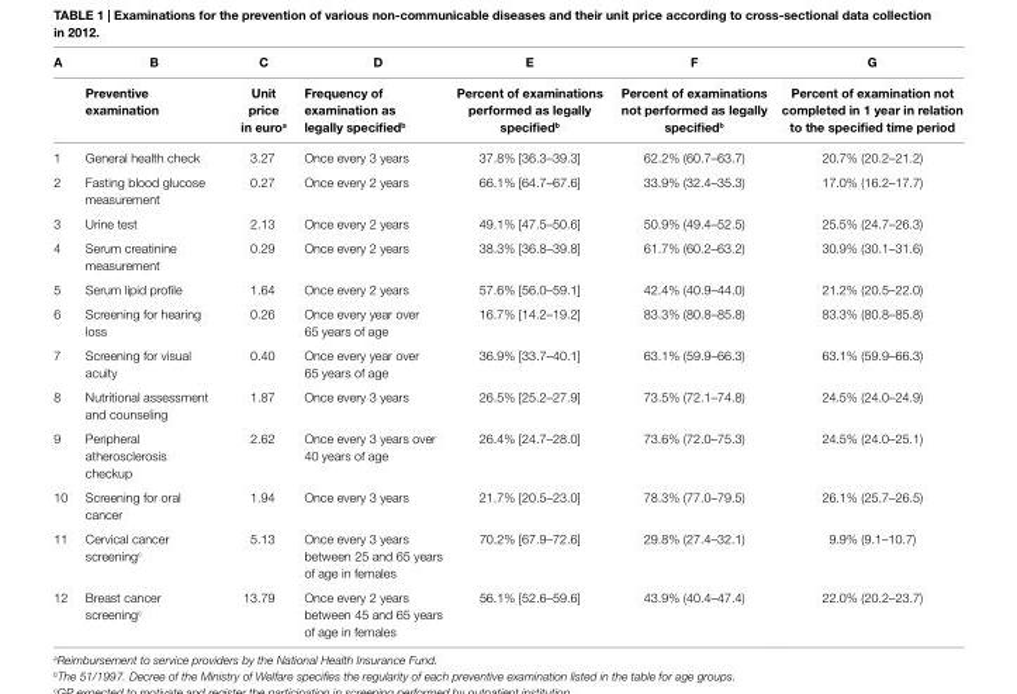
<table><thead><tr><td rowspan="2">a</td><td rowspan="2">B Preventive examination</td><td rowspan="2">c Unit price in euroa</td><td rowspan="2">D Frequency of examination as legally specifiedb</td><td rowspan="2">e Percent of examinations performed as legally specifiedb</td><td rowspan="2">F Percent of examinations not performed as legally specifiedb</td><td rowspan="2">g Percent of examination not completed in 1 year in relation to the specified time period</td></tr><tr></tr></thead><tbody><tr><td>1</td><td>General health check</td><td>3.27</td><td>Once every 3 years</td><td>37.8% [36.3–39.3]</td><td>62.2% (60.7–63.7)</td><td>20.7% (20.2–21.2)</td></tr><tr><td>2</td><td>Fasting blood glucose measurement</td><td>0.27</td><td>Once every 2 years</td><td>66.1% [64.7–67.6]</td><td>33.9% (32.4–35.3)</td><td>17.0% (16.2–17.7)</td></tr><tr><td>3</td><td>Urine test</td><td>2.13</td><td>Once every 2 years</td><td>49.1% [47.5–50.6]</td><td>50.9% (49.4–52.5)</td><td>25.5% (24.7–26.3)</td></tr><tr><td>4</td><td>Serum creatinine measurement</td><td>0.29</td><td>Once every 2 years</td><td>38.3% [36.8–39.8]</td><td>61.7% (60.2–63.2)</td><td>30.9% (30.1–31.6)</td></tr><tr><td>5</td><td>Serum lipid profile</td><td>1.64</td><td>Once every 2 years</td><td>57.6% [56.0–59.1]</td><td>42.4% (40.9–44.0)</td><td>21.2% (20.5–22.0)</td></tr><tr><td>6</td><td>Screening for hearing loss</td><td>0.26</td><td>Once every year over 65 years of age</td><td>16.7% [14.2–19.2]</td><td>83.3% (80.8–85.8)</td><td>83.3% (80.8–85.8)</td></tr><tr><td>7</td><td>Screening for visual acuity</td><td>0.40</td><td>Once every year over 65 years of age</td><td>36.9% [33.7–40.1]</td><td>63.1% (59.9–66.3)</td><td>63.1% (59.9–66.3)</td></tr><tr><td>8</td><td>Nutritional assessment and counseling</td><td>1.87</td><td>Once every 3 years</td><td>26.5% [25.2–27.9]</td><td>73.5% (72.1–74.8)</td><td>24.5% (24.0–24.9)</td></tr><tr><td>9</td><td>Peripheral atherosclerosis checkup</td><td>2.62</td><td>Once every 3 years over 40 years of age</td><td>26.4% [24.7–28.0]</td><td>73.6% (72.0–75.3)</td><td>24.5% (24.0–25.1)</td></tr><tr><td>10</td><td>Screening for oral cancer</td><td>1.94</td><td>Once every 3 years</td><td>21.7% [20.5–23.0]</td><td>78.3% (77.0–79.5)</td><td>26.1% (25.7–26.5)</td></tr><tr><td>11</td><td>Cervical cancer screening<sup>c</sup></td><td>5.13</td><td>Once every 3 years between 25 and 65 years of age in females</td><td>70.2% [67.9–72.6]</td><td>29.8% (27.4–32.1)</td><td>9.9% (9.1–10.7)</td></tr><tr><td>12</td><td>Breast cancer screening<sup>c</sup></td><td>13.79</td><td>Once every 2 years between 45 and 65 years of age in females</td><td>56.1% [52.6–59.6]</td><td>43.9% (40.4–47.4)</td><td>22.0% (20.2–23.7)</td></tr></tbody></table>